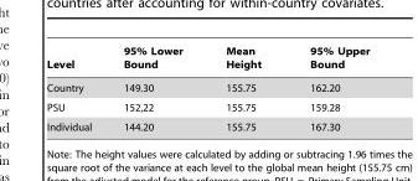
<table><thead><tr><td>Level</td><td>95% Lower Bound</td><td>Mean Height</td><td>95% Upper Bound</td></tr></thead><tbody><tr><td>Country</td><td>149.30</td><td>155.75</td><td>162.20</td></tr><tr><td>PSU</td><td>152,22</td><td>155.75</td><td>159.28</td></tr><tr><td>Individual</td><td>144.20</td><td>155.75</td><td>167.30</td></tr></tbody></table>